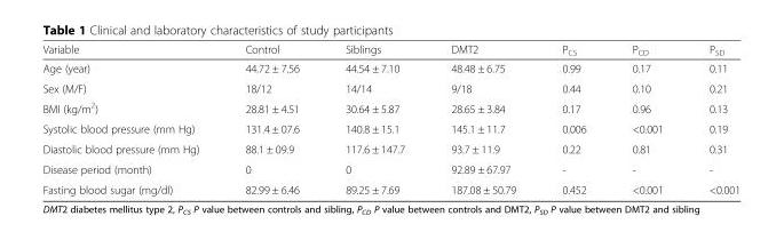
<table><thead><tr><td>Variable</td><td>Control</td><td>Siblings</td><td>DMT2</td><td>P<sub>CS</sub></td><td>P<sub>CD</sub></td><td>P<sub>SD</sub></td></tr></thead><tbody><tr><td>Age (year)</td><td>44.72 ± 7.56</td><td>44.54 ± 7.10</td><td>48.48 ± 6.75</td><td>0.99</td><td>0.17</td><td>0.11</td></tr><tr><td>Sex (M/F)</td><td>18/12</td><td>14/14</td><td>9/18</td><td>0.44</td><td>0.10</td><td>0.21</td></tr><tr><td>BMI (kg/m<sup>2</sup>)</td><td>28.81 ± 4.51</td><td>30.64 ± 5.87</td><td>28.65 ± 3.84</td><td>0.17</td><td>0.96</td><td>0.13</td></tr><tr><td>Systolic blood pressure (mm Hg)</td><td>131.4 ± 07.6</td><td>140.8 ± 15.1</td><td>145.1 ± 11.7</td><td>0.006</td><td>&lt;0.001</td><td>0.19</td></tr><tr><td>Diastolic blood pressure (mm Hg)</td><td>88.1 ± 09.9</td><td>117.6 ± 147.7</td><td>93.7 ± 11.9</td><td>0.22</td><td>0.81</td><td>0.31</td></tr><tr><td>Disease period (month)</td><td>0</td><td>0</td><td>92.89 ± 67.97</td><td>-</td><td>-</td><td>-</td></tr><tr><td>Fasting blood sugar (mg/dl)</td><td>82.99 ± 6.46</td><td>89.25 ± 7.69</td><td>187.08 ± 50.79</td><td>0.452</td><td>&lt;0.001</td><td>&lt;0.001</td></tr></tbody></table>